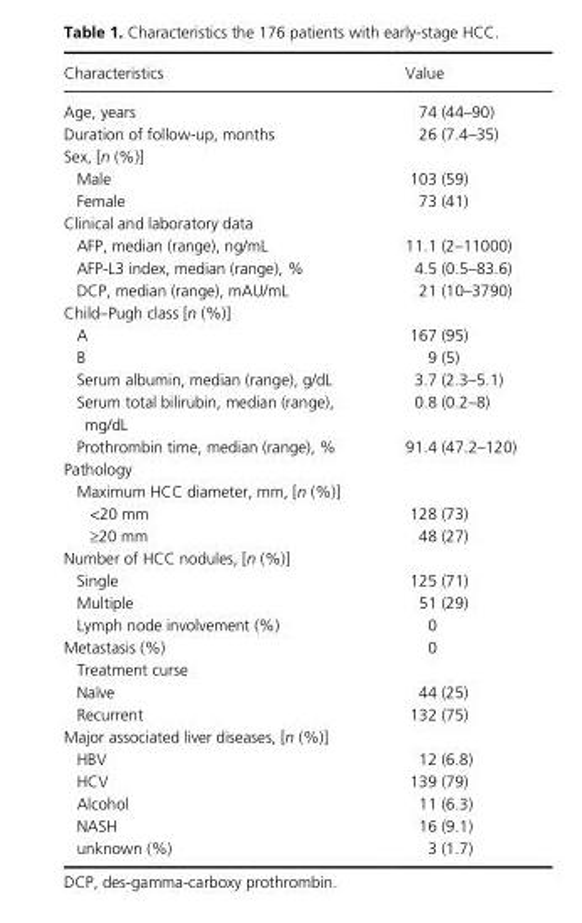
<table><thead><tr><td>Characteristics</td><td>Value</td></tr></thead><tbody><tr><td>Age, years</td><td>74 (44–90)</td></tr><tr><td>Duration of follow- up, months</td><td>26 (7.4–35)</td></tr><tr><td colspan="2">Sex, [n (%)]</td></tr><tr><td>Male</td><td>103 (59)</td></tr><tr><td>Female</td><td>73 (41)</td></tr><tr><td colspan="2">Clinical and laboratory data</td></tr><tr><td>AFP, median (range), ng/mL</td><td>11.1 (2–11000)</td></tr><tr><td>AFP- L3 index, median (range), %</td><td>4.5 (0.5–83.6)</td></tr><tr><td>DCP, median (range), mAU/mL</td><td>21 (10–3790)</td></tr><tr><td colspan="2">Child–Pugh class [n (%)]</td></tr><tr><td>A</td><td>167 (95)</td></tr><tr><td>B</td><td>9 (5)</td></tr><tr><td>Serum albumin, median (range), g/dL</td><td>3.7 (2.3–5.1)</td></tr><tr><td>S erum total bilirubin, median (range), mg/dL</td><td>0.8 (0.2–8)</td></tr><tr><td>Prothrombin time, median (range), %</td><td>91.4 (47.2–120)</td></tr><tr><td colspan="2">Pathology</td></tr><tr><td colspan="2">Maximum HCC diameter, mm, [n (%)]</td></tr><tr><td>&lt;20 mm</td><td>128 (73)</td></tr><tr><td>≥20 mm</td><td>48 (27)</td></tr><tr><td colspan="2">Number of HCC nodules, [n (%)]</td></tr><tr><td>Single</td><td>125 (71)</td></tr><tr><td>Multiple</td><td>51 (29)</td></tr><tr><td>Lymph node involvement (%)</td><td>0</td></tr><tr><td>Metastasis (%)</td><td>0</td></tr><tr><td colspan="2">Treatment curse</td></tr><tr><td>Naïve</td><td>44 (25)</td></tr><tr><td>Recurrent</td><td>132 (75)</td></tr><tr><td colspan="2">Major associated liver diseases, [n (%)]</td></tr><tr><td>HBV</td><td>12 (6.8)</td></tr><tr><td>HCV</td><td>139 (79)</td></tr><tr><td>Alcohol</td><td>11 (6.3)</td></tr><tr><td>NASH</td><td>16 (9.1)</td></tr><tr><td>unknown (%)</td><td>3 (1.7)</td></tr></tbody></table>